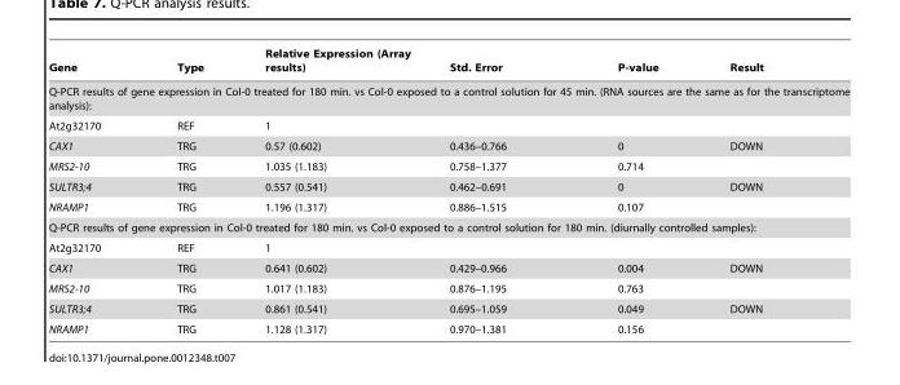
<table><thead><tr><td>Gene</td><td>Type</td><td>Relative Expression (Array results)</td><td>Std. Error</td><td>P-value</td><td>Result</td></tr></thead><tbody><tr><td colspan="6">Q-PCR results of gene expression in Col-0 treated for 180 min. vs Col-0 exposed to a control solution for 45 min. (RNA sources are the same as for the transcriptome analysis):</td></tr><tr><td>At2g32170</td><td>REF</td><td>1</td><td></td><td></td><td></td></tr><tr><td>CAX1</td><td>TRG</td><td>0.57 (0.602)</td><td>0.436–0.766</td><td>0</td><td>DOWN</td></tr><tr><td>MRS2-10</td><td>TRG</td><td>1.035 (1.183)</td><td>0.758–1.377</td><td>0.714</td><td></td></tr><tr><td>SULTR3;4</td><td>TRG</td><td>0.557 (0.541)</td><td>0.462–0.691</td><td>0</td><td>DOWN</td></tr><tr><td>NRAMP1</td><td>TRG</td><td>1.196 (1.317)</td><td>0.886–1.515</td><td>0.107</td><td></td></tr><tr><td colspan="6">Q-PCR results of gene expression in Col-0 treated for 180 min. vs Col-0 exposed to a control solution for 180 min. (diurnally controlled samples):</td></tr><tr><td>At2g32170</td><td>REF</td><td>1</td><td></td><td></td><td></td></tr><tr><td>CAX1</td><td>TRG</td><td>0.641 (0.602)</td><td>0.429–0.966</td><td>0.004</td><td>DOWN</td></tr><tr><td>MRS2-10</td><td>TRG</td><td>1.017 (1.183)</td><td>0.876–1.195</td><td>0.763</td><td></td></tr><tr><td>SULTR3;4</td><td>TRG</td><td>0.861 (0.541)</td><td>0.695–1.059</td><td>0.049</td><td>DOWN</td></tr><tr><td>NRAMP1</td><td>TRG</td><td>1.128 (1.317)</td><td>0.970–1.381</td><td>0.156</td><td></td></tr></tbody></table>